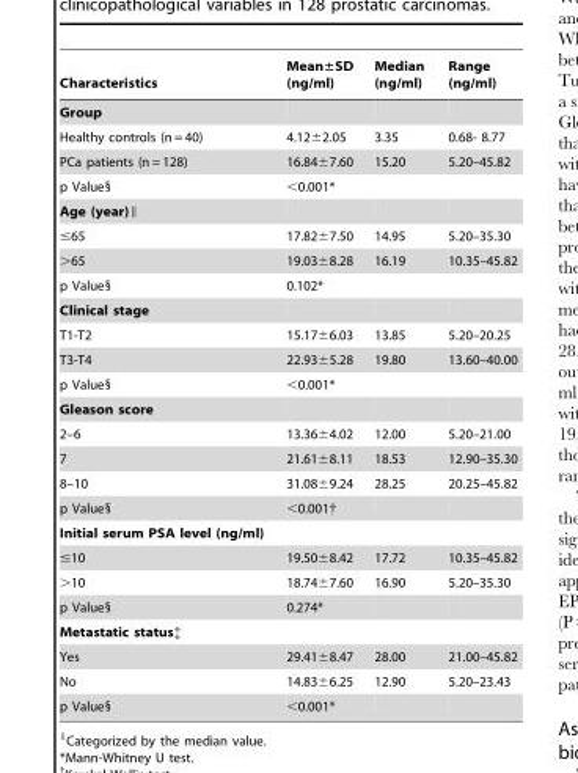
<table><thead><tr><td>Characteristics</td><td>Mean±SD (ng/ml)</td><td>Median (ng/ml)</td><td>Range (ng/ml)</td></tr></thead><tbody><tr><td colspan="4">Group</td></tr><tr><td>Healthy controls (n = 40)</td><td>4.12±2.05</td><td>3.35</td><td>0.68- 8.77</td></tr><tr><td>PCa patients (n = 128)</td><td>16.84±7.60</td><td>15.20</td><td>5.20–45.82</td></tr><tr><td>p Value§</td><td>&lt;0.001*</td><td></td><td></td></tr><tr><td colspan="4">Age (year)∥</td></tr><tr><td>≤65</td><td>17.82±7.50</td><td>14.95</td><td>5.20–35.30</td></tr><tr><td>&gt;65</td><td>19.03±8.28</td><td>16.19</td><td>10.35–45.82</td></tr><tr><td>p Value§</td><td>0.102*</td><td></td><td></td></tr><tr><td colspan="4">Clinical stage</td></tr><tr><td>T1-T2</td><td>15.17±6.03</td><td>13.85</td><td>5.20–20.25</td></tr><tr><td>T3-T4</td><td>22.93±5.28</td><td>19.80</td><td>13.60–40.00</td></tr><tr><td>p Value§</td><td>&lt;0.001*</td><td></td><td></td></tr><tr><td colspan="4">Gleason score</td></tr><tr><td>2–6</td><td>13.36±4.02</td><td>12.00</td><td>5.20–21.00</td></tr><tr><td>7</td><td>21.61±8.11</td><td>18.53</td><td>12.90–35.30</td></tr><tr><td>8–10</td><td>31.08±9.24</td><td>28.25</td><td>20.25–45.82</td></tr><tr><td>p Value§</td><td>&lt;0.001†</td><td></td><td></td></tr><tr><td colspan="4">Initial serum PSA level (ng/ml)</td></tr><tr><td>≤10</td><td>19.50±8.42</td><td>17.72</td><td>10.35–45.82</td></tr><tr><td>&gt;10</td><td>18.74±7.60</td><td>16.90</td><td>5.20–35.30</td></tr><tr><td>p Value§</td><td>0.274*</td><td></td><td></td></tr><tr><td colspan="4">Metastatic status‡</td></tr><tr><td>Yes</td><td>29.41±8.47</td><td>28.00</td><td>21.00–45.82</td></tr><tr><td>No</td><td>14.83±6.25</td><td>12.90</td><td>5.20–23.43</td></tr><tr><td>p Value§</td><td>&lt;0.001*</td><td></td><td></td></tr></tbody></table>